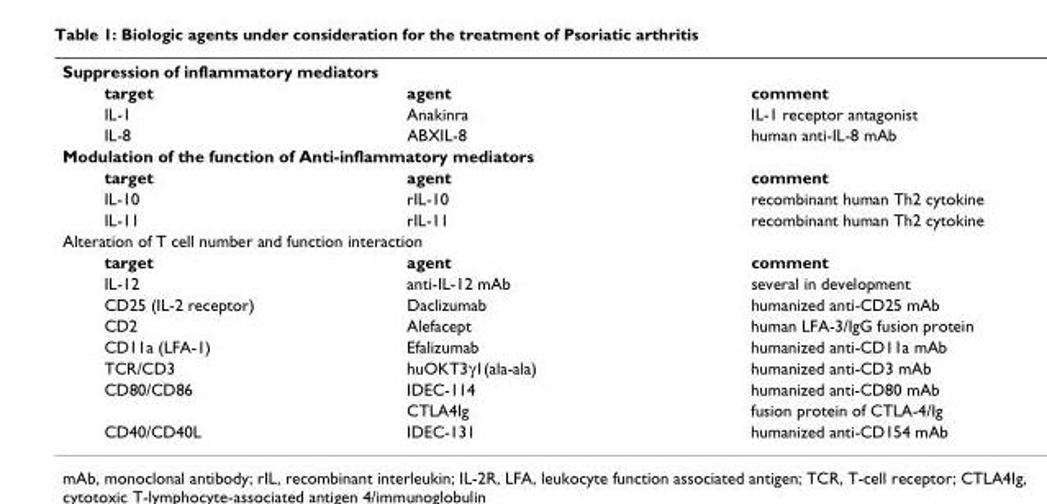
<table><tbody><tr><td colspan="3">Suppression of inflammatory mediators</td></tr><tr><td>target</td><td>agent</td><td>comment</td></tr><tr><td>IL-1</td><td>Anakinra</td><td>IL-1 receptor antagonist</td></tr><tr><td>IL-8</td><td>ABXIL-8</td><td>human anti-IL-8 mAb</td></tr><tr><td colspan="3">Modulation of the function of Anti-inflammatory mediators</td></tr><tr><td>target</td><td>agent</td><td>comment</td></tr><tr><td>IL-10</td><td>rIL-10</td><td>recombinant human Th2 cytokine</td></tr><tr><td>IL-11</td><td>rIL-11</td><td>recombinant human Th2 cytokine</td></tr><tr><td colspan="3">Alteration of T cell number and function interaction</td></tr><tr><td>target</td><td>agent</td><td>comment</td></tr><tr><td>IL-12</td><td>anti-IL-12 mAb</td><td>several in development</td></tr><tr><td>CD25 (IL-2 receptor)</td><td>Daclizumab</td><td>humanized anti-CD25 mAb</td></tr><tr><td>CD2</td><td>Alefacept</td><td>human LFA-3/IgG fusion protein</td></tr><tr><td>CD11a (LFA-1)</td><td>Efalizumab</td><td>humanized anti-CD11a mAb</td></tr><tr><td>TCR/CD3</td><td>huOKT3γ1(ala-ala)</td><td>humanized anti-CD3 mAb</td></tr><tr><td rowspan="2">CD80/CD86</td><td>IDEC-114</td><td>humanized anti-CD80 mAb</td></tr><tr><td>CTLA4Ig</td><td>fusion protein of CTLA-4/Ig</td></tr><tr><td>CD40/CD40L</td><td>IDEC-131</td><td>humanized anti-CD154 mAb</td></tr></tbody></table>